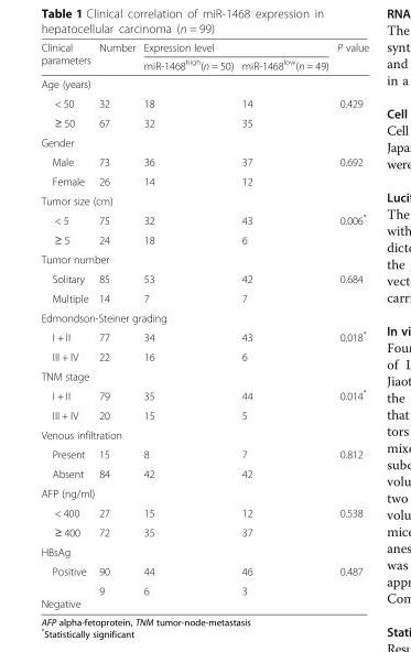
<table><thead><tr><td rowspan="2">Clinical parameters</td><td rowspan="2">Number</td><td colspan="2">Expression level</td><td rowspan="2">P value</td></tr><tr><td>miR-1468high(n = 50)</td><td>miR-1468low(n = 49)</td></tr></thead><tbody><tr><td colspan="5">Age (years)</td></tr><tr><td>&lt; 50</td><td>32</td><td>18</td><td>14</td><td rowspan="2">0.429</td></tr><tr><td>≥ 50</td><td>67</td><td>32</td><td>35</td></tr><tr><td colspan="5">Gender</td></tr><tr><td>Male</td><td>73</td><td>36</td><td>37</td><td rowspan="2">0.692</td></tr><tr><td>Female</td><td>26</td><td>14</td><td>12</td></tr><tr><td colspan="5">Tumor size (cm)</td></tr><tr><td>&lt; 5</td><td>75</td><td>32</td><td>43</td><td rowspan="2">0.006*</td></tr><tr><td>≥ 5</td><td>24</td><td>18</td><td>6</td></tr><tr><td colspan="5">Tumor number</td></tr><tr><td>Solitary</td><td>85</td><td>53</td><td>42</td><td rowspan="2">0.684</td></tr><tr><td>Multiple</td><td>14</td><td>7</td><td>7</td></tr><tr><td colspan="5">Edmondson-Steiner grading</td></tr><tr><td>I + II</td><td>77</td><td>34</td><td>43</td><td rowspan="2">0.018*</td></tr><tr><td>III + IV</td><td>22</td><td>16</td><td>6</td></tr><tr><td colspan="5">TNM stage</td></tr><tr><td>I + II</td><td>79</td><td>35</td><td>44</td><td rowspan="2">0.014*</td></tr><tr><td>III + IV</td><td>20</td><td>15</td><td>5</td></tr><tr><td colspan="5">Venous infiltration</td></tr><tr><td>Present</td><td>15</td><td>8</td><td>7</td><td rowspan="2">0.812</td></tr><tr><td>Absent</td><td>84</td><td>42</td><td>42</td></tr><tr><td colspan="5">AFP (ng/ml)</td></tr><tr><td>&lt; 400</td><td>27</td><td>15</td><td>12</td><td rowspan="2">0.538</td></tr><tr><td>≥ 400</td><td>72</td><td>35</td><td>37</td></tr><tr><td colspan="5">HBsAg</td></tr><tr><td>Positive</td><td>90</td><td>44</td><td>46</td><td rowspan="2">0.487</td></tr><tr><td>Negative</td><td>9</td><td>6</td><td>3</td></tr></tbody></table>